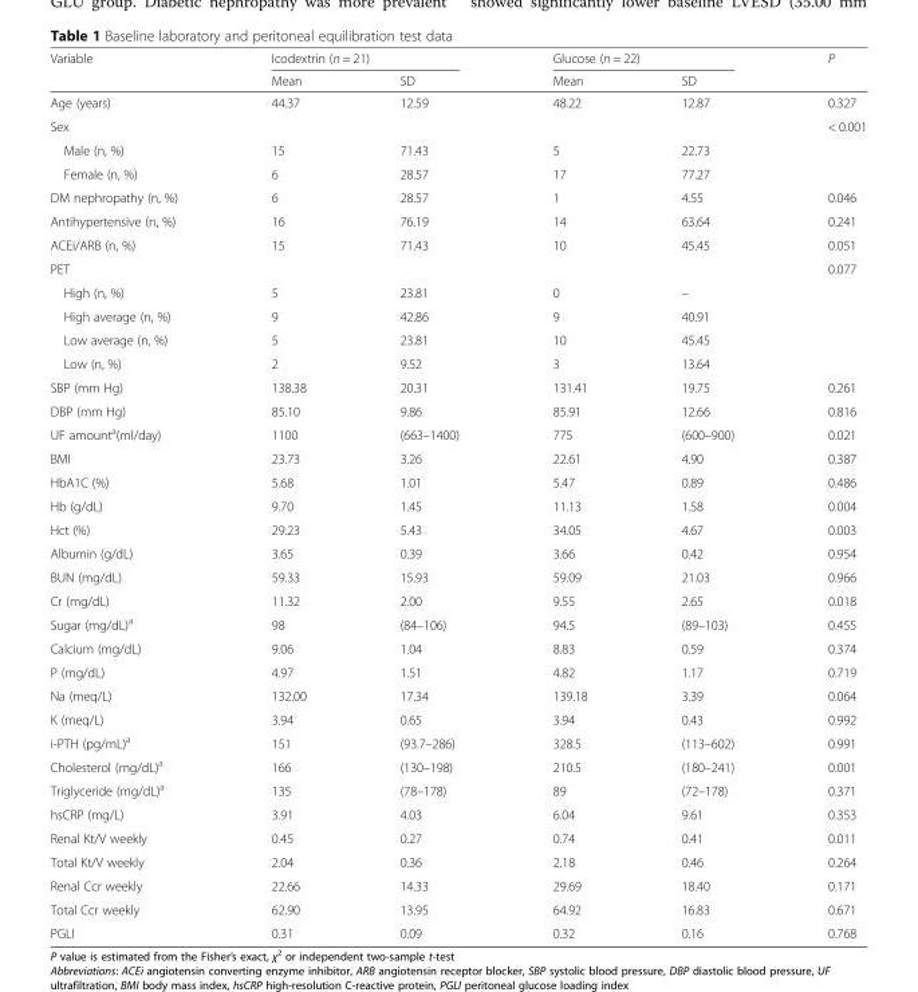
<table><thead><tr><td rowspan="2">Variable</td><td colspan="2">Icodextrin (n = 21)</td><td colspan="2">Glucose (n = 22)</td><td rowspan="2">P</td></tr><tr><td>Mean</td><td>SD</td><td>Mean</td><td>SD</td></tr></thead><tbody><tr><td>Age (years)</td><td>44.37</td><td>12.59</td><td>48.22</td><td>12.87</td><td>0.327</td></tr><tr><td>Sex</td><td></td><td></td><td></td><td></td><td>&lt; 0.001</td></tr><tr><td>Male (n, %)</td><td>15</td><td>71.43</td><td>5</td><td>22.73</td><td></td></tr><tr><td>Female (n, %)</td><td>6</td><td>28.57</td><td>17</td><td>77.27</td><td></td></tr><tr><td>DM nephropathy (n, %)</td><td>6</td><td>28.57</td><td>1</td><td>4.55</td><td>0.046</td></tr><tr><td>Antihypertensive (n, %)</td><td>16</td><td>76.19</td><td>14</td><td>63.64</td><td>0.241</td></tr><tr><td>ACEi/ARB (n, %)</td><td>15</td><td>71.43</td><td>10</td><td>45.45</td><td>0.051</td></tr><tr><td>PET</td><td></td><td></td><td></td><td></td><td>0.077</td></tr><tr><td>High (n, %)</td><td>5</td><td>23.81</td><td>0</td><td>–</td><td></td></tr><tr><td>High average (n, %)</td><td>9</td><td>42.86</td><td>9</td><td>40.91</td><td></td></tr><tr><td>Low average (n, %)</td><td>5</td><td>23.81</td><td>10</td><td>45.45</td><td></td></tr><tr><td>Low (n, %)</td><td>2</td><td>9.52</td><td>3</td><td>13.64</td><td></td></tr><tr><td>SBP (mm Hg)</td><td>138.38</td><td>20.31</td><td>131.41</td><td>19.75</td><td>0.261</td></tr><tr><td>DBP (mm Hg)</td><td>85.10</td><td>9.86</td><td>85.91</td><td>12.66</td><td>0.816</td></tr><tr><td>UF amount<sup>a</sup>(ml/day)</td><td>1100</td><td>(663–1400)</td><td>775</td><td>(600–900)</td><td>0.021</td></tr><tr><td>BMI</td><td>23.73</td><td>3.26</td><td>22.61</td><td>4.90</td><td>0.387</td></tr><tr><td>HbA1C (%)</td><td>5.68</td><td>1.01</td><td>5.47</td><td>0.89</td><td>0.486</td></tr><tr><td>Hb (g/dL)</td><td>9.70</td><td>1.45</td><td>11.13</td><td>1.58</td><td>0.004</td></tr><tr><td>Hct (%)</td><td>29.23</td><td>5.43</td><td>34.05</td><td>4.67</td><td>0.003</td></tr><tr><td>Albumin (g/dL)</td><td>3.65</td><td>0.39</td><td>3.66</td><td>0.42</td><td>0.954</td></tr><tr><td>BUN (mg/dL)</td><td>59.33</td><td>15.93</td><td>59.09</td><td>21.03</td><td>0.966</td></tr><tr><td>Cr (mg/dL)</td><td>11.32</td><td>2.00</td><td>9.55</td><td>2.65</td><td>0.018</td></tr><tr><td>Sugar (mg/dL)<sup>a</sup></td><td>98</td><td>(84–106)</td><td>94.5</td><td>(89–103)</td><td>0.455</td></tr><tr><td>Calcium (mg/dL)</td><td>9.06</td><td>1.04</td><td>8.83</td><td>0.59</td><td>0.374</td></tr><tr><td>P (mg/dL)</td><td>4.97</td><td>1.51</td><td>4.82</td><td>1.17</td><td>0.719</td></tr><tr><td>Na (meq/L)</td><td>132.00</td><td>17.34</td><td>139.18</td><td>3.39</td><td>0.064</td></tr><tr><td>K (meq/L)</td><td>3.94</td><td>0.65</td><td>3.94</td><td>0.43</td><td>0.992</td></tr><tr><td>i-PTH (pg/mL)<sup>a</sup></td><td>151</td><td>(93.7–286)</td><td>328.5</td><td>(113–602)</td><td>0.991</td></tr><tr><td>Cholesterol (mg/dL)<sup>a</sup></td><td>166</td><td>(130–198)</td><td>210.5</td><td>(180–241)</td><td>0.001</td></tr><tr><td>Triglyceride (mg/dL)<sup>a</sup></td><td>135</td><td>(78–178)</td><td>89</td><td>(72–178)</td><td>0.371</td></tr><tr><td>hsCRP (mg/L)</td><td>3.91</td><td>4.03</td><td>6.04</td><td>9.61</td><td>0.353</td></tr><tr><td>Renal Kt/V weekly</td><td>0.45</td><td>0.27</td><td>0.74</td><td>0.41</td><td>0.011</td></tr><tr><td>Total Kt/V weekly</td><td>2.04</td><td>0.36</td><td>2.18</td><td>0.46</td><td>0.264</td></tr><tr><td>Renal Ccr weekly</td><td>22.66</td><td>14.33</td><td>29.69</td><td>18.40</td><td>0.171</td></tr><tr><td>Total Ccr weekly</td><td>62.90</td><td>13.95</td><td>64.92</td><td>16.83</td><td>0.671</td></tr><tr><td>PGLI</td><td>0.31</td><td>0.09</td><td>0.32</td><td>0.16</td><td>0.768</td></tr></tbody></table>